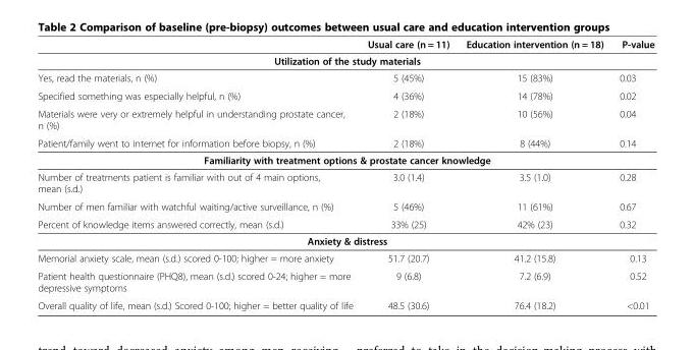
<table><thead><tr><td></td><td>Usual care (n = 11)</td><td>Education intervention (n = 18)</td><td>P-value</td></tr></thead><tbody><tr><td colspan="4">Utilization of the study materials</td></tr><tr><td>Yes, read the materials, n (%)</td><td>5 (45%)</td><td>15 (83%)</td><td>0.03</td></tr><tr><td>Specified something was especially helpful, n (%)</td><td>4 (36%)</td><td>14 (78%)</td><td>0.02</td></tr><tr><td>Materials were very or extremely helpful in understanding prostate cancer, n (%)</td><td>2 (18%)</td><td>10 (56%)</td><td>0.04</td></tr><tr><td>Patient/family went to internet for information before biopsy, n (%)</td><td>2 (18%)</td><td>8 (44%)</td><td>0.14</td></tr><tr><td colspan="4">Familiarity with treatment options &amp; prostate cancer knowledge</td></tr><tr><td>Number of treatments patient is familiar with out of 4 main options, mean (s.d.)</td><td>3.0 (1.4)</td><td>3.5 (1.0)</td><td>0.28</td></tr><tr><td>Number of men familiar with watchful waiting/active surveillance, n (%)</td><td>5 (46%)</td><td>11 (61%)</td><td>0.67</td></tr><tr><td>Percent of knowledge items answered correctly, mean (s.d.)</td><td>33% (25)</td><td>42% (23)</td><td>0.32</td></tr><tr><td colspan="4">Anxiety &amp; distress</td></tr><tr><td>Memorial anxiety scale, mean (s.d.) scored 0-100; higher = more anxiety</td><td>51.7 (20.7)</td><td>41.2 (15.8)</td><td>0.13</td></tr><tr><td>Patient health questionnaire (PHQ8), mean (s.d.) scored 0-24; higher = more depressive symptoms</td><td>9 (6.8)</td><td>7.2 (6.9)</td><td>0.52</td></tr><tr><td>Overall quality of life, mean (s.d.) Scored 0-100; higher = better quality of life</td><td>48.5 (30.6)</td><td>76.4 (18.2)</td><td>&lt;0.01</td></tr></tbody></table>